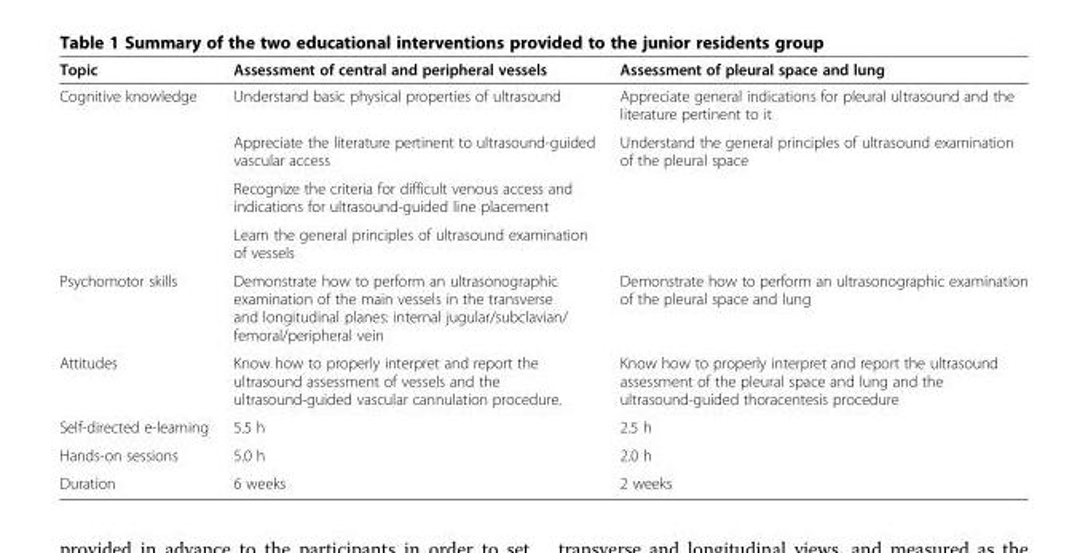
<table><thead><tr><td>Topic</td><td>Assessment of central and peripheral vessels</td><td>Assessment of pleural space and lung</td></tr></thead><tbody><tr><td rowspan="4">Cognitive knowledge</td><td>Understand basic physical properties of ultrasound</td><td>Appreciate general indications for pleural ultrasound and the literature pertinent to it</td></tr><tr><td>Appreciate the literature pertinent to ultrasound-guided vascular access</td><td>Understand the general principles of ultrasound examination of the pleural space</td></tr><tr><td>Recognize the criteria for difficult venous access and indications for ultrasound-guided line placement</td><td></td></tr><tr><td>Learn the general principles of ultrasound examination of vessels</td><td></td></tr><tr><td>Psychomotor skills</td><td>Demonstrate how to perform an ultrasonographic examination of the main vessels in the transverse and longitudinal planes: internal jugular/subclavian/ femoral/peripheral vein</td><td>Demonstrate how to perform an ultrasonographic examination of the pleural space and lung</td></tr><tr><td>Attitudes</td><td>Know how to properly interpret and report the ultrasound assessment of vessels and the ultrasound-guided vascular cannulation procedure.</td><td>Know how to properly interpret and report the ultrasound assessment of the pleural space and lung and the ultrasound-guided thoracentesis procedure</td></tr><tr><td>Self-directed e-learning</td><td>5.5 h</td><td>2.5 h</td></tr><tr><td>Hands-on sessions</td><td>5.0 h</td><td>2.0 h</td></tr><tr><td>Duration</td><td>6 weeks</td><td>2 weeks</td></tr></tbody></table>